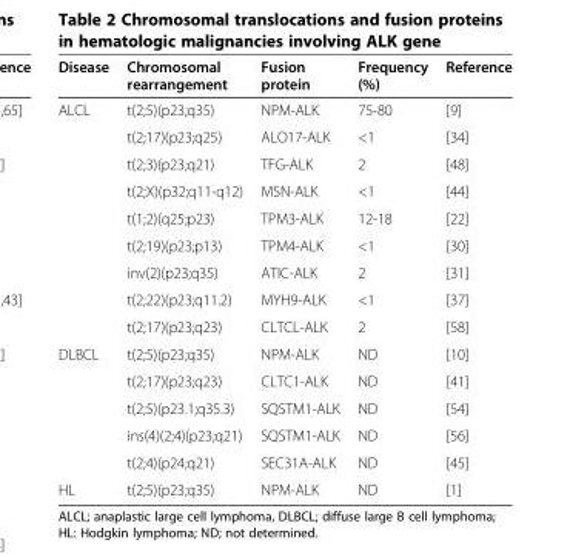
<table><thead><tr><td>Disease</td><td>Chromosomal rearrangement</td><td>Fusion protein</td><td>Frequency (%)</td><td>Reference</td></tr></thead><tbody><tr><td rowspan="9">ALCL</td><td>t(2;5)(p23;q35)</td><td>NPM-ALK</td><td>75-80</td><td>[9]</td></tr><tr><td>t(2;17)(p23;q25)</td><td>ALO17-ALK</td><td>&lt;1</td><td>[34]</td></tr><tr><td>t(2;3)(p23;q21)</td><td>TFG-ALK</td><td>2</td><td>[48]</td></tr><tr><td>t(2;X)(p32;q11-q12)</td><td>MSN-ALK</td><td>&lt;1</td><td>[44]</td></tr><tr><td>t(1;2)(q25;p23)</td><td>TPM3-ALK</td><td>12-18</td><td>[22]</td></tr><tr><td>t(2;19)(p23;p13)</td><td>TPM4-ALK</td><td>&lt;1</td><td>[30]</td></tr><tr><td>inv(2)(p23;q35)</td><td>ATIC-ALK</td><td>2</td><td>[31]</td></tr><tr><td>t(2;22)(p23;q11.2)</td><td>MYH9-ALK</td><td>&lt;1</td><td>[37]</td></tr><tr><td>t(2;17)(p23;q23)</td><td>CLTCL-ALK</td><td>2</td><td>[58]</td></tr><tr><td rowspan="5">DLBCL</td><td>t(2;5)(p23;q35)</td><td>NPM-ALK</td><td>ND</td><td>[10]</td></tr><tr><td>t(2;17)(p23;q23)</td><td>CLTC1-ALK</td><td>ND</td><td>[41]</td></tr><tr><td>t(2;5)(p23.1;q35.3)</td><td>SQSTM1-ALK</td><td>ND</td><td>[54]</td></tr><tr><td>ins(4)(2;4)(p23;q21)</td><td>SQSTM1-ALK</td><td>ND</td><td>[56]</td></tr><tr><td>t(2;4)(p24;q21)</td><td>SEC31A-ALK</td><td>ND</td><td>[45]</td></tr><tr><td>HL</td><td>t(2;5)(p23;q35)</td><td>NPM-ALK</td><td>ND</td><td>[1]</td></tr></tbody></table>